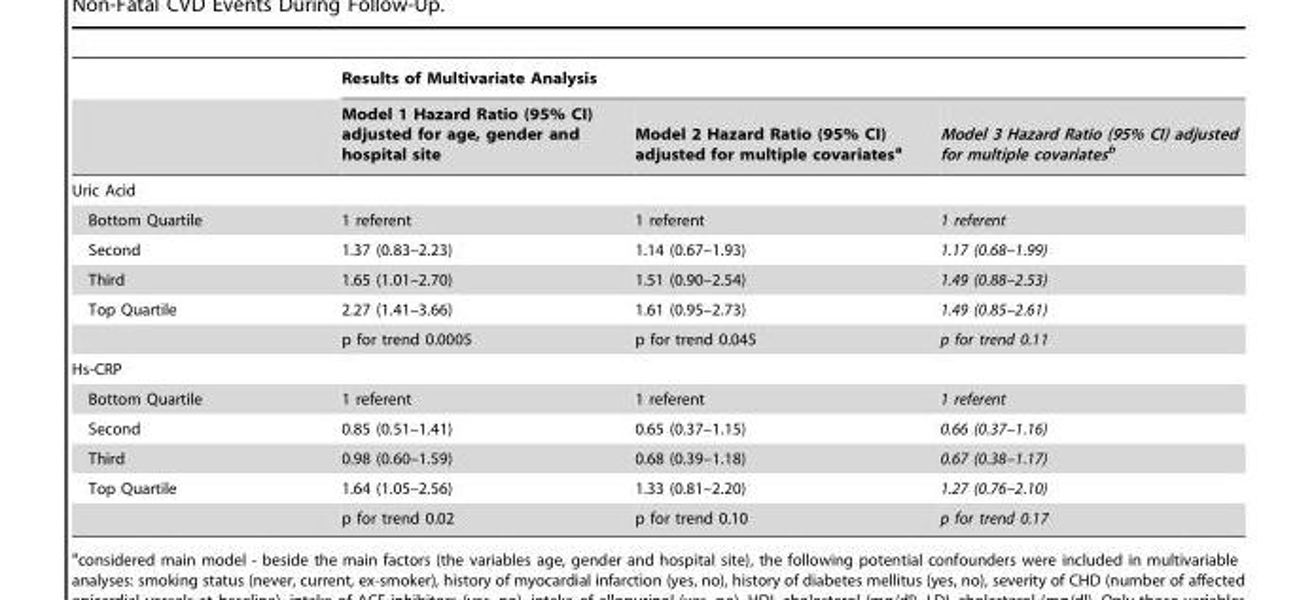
<table><thead><tr><td rowspan="2"></td><td colspan="3">Results of Multivariate Analysis</td></tr><tr><td>Model 1 Hazard Ratio (95% CI) adjusted for age, gender and hospital site</td><td>Model 2 Hazard Ratio (95% CI) adjusted for multiple covariates<sup>a</sup></td><td>Model 3 Hazard Ratio (95% CI) adjusted for multiple covariatesb</td></tr></thead><tbody><tr><td colspan="4">Uric Acid</td></tr><tr><td>Bottom Quartile</td><td>1 referent</td><td>1 referent</td><td>1 referent</td></tr><tr><td>Second</td><td>1.37 (0.83–2.23)</td><td>1.14 (0.67–1.93)</td><td>1.17 (0.68–1.99)</td></tr><tr><td>Third</td><td>1.65 (1.01–2.70)</td><td>1.51 (0.90–2.54)</td><td>1.49 (0.88–2.53)</td></tr><tr><td rowspan="2">Top Quartile</td><td>2.27 (1.41–3.66)</td><td>1.61 (0.95–2.73)</td><td>1.49 (0.85–2.61)</td></tr><tr><td>p for trend 0.0005</td><td>p for trend 0.045</td><td>p for trend 0.11</td></tr><tr><td colspan="4">Hs-CRP</td></tr><tr><td>Bottom Quartile</td><td>1 referent</td><td>1 referent</td><td>1 referent</td></tr><tr><td>Second</td><td>0.85 (0.51–1.41)</td><td>0.65 (0.37–1.15)</td><td>0.66 (0.37–1.16)</td></tr><tr><td>Third</td><td>0.98 (0.60–1.59)</td><td>0.68 (0.39–1.18)</td><td>0.67 (0.38–1.17)</td></tr><tr><td rowspan="2">Top Quartile</td><td>1.64 (1.05–2.56)</td><td>1.33 (0.81–2.20)</td><td>1.27 (0.76–2.10)</td></tr><tr><td>p for trend 0.02</td><td>p for trend 0.10</td><td>p for trend 0.17</td></tr></tbody></table>